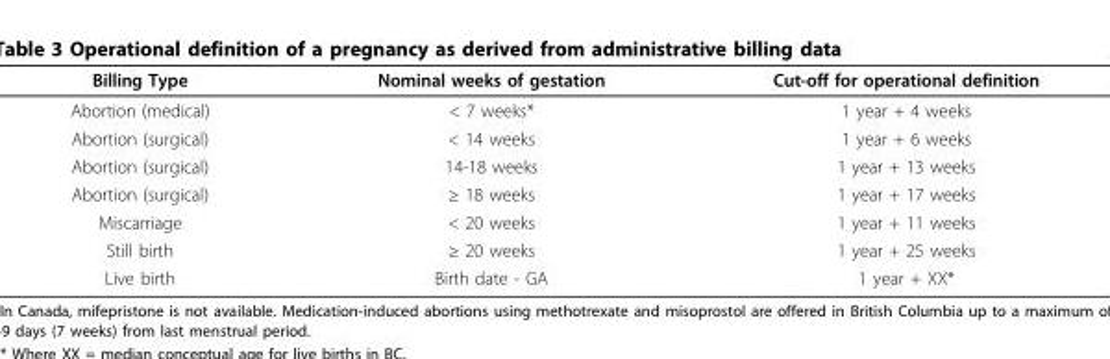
<table><thead><tr><td>Billing Type</td><td>Nominal weeks of gestation</td><td>Cut-off for operational definition</td></tr></thead><tbody><tr><td>Abortion (medical)</td><td>&lt; 7 weeks*</td><td>1 year + 4 weeks</td></tr><tr><td>Abortion (surgical)</td><td>&lt; 14 weeks</td><td>1 year + 6 weeks</td></tr><tr><td>Abortion (surgical)</td><td>14-18 weeks</td><td>1 year + 13 weeks</td></tr><tr><td>Abortion (surgical)</td><td>≥ 18 weeks</td><td>1 year + 17 weeks</td></tr><tr><td>Miscarriage</td><td>&lt; 20 weeks</td><td>1 year + 11 weeks</td></tr><tr><td>Still birth</td><td>≥ 20 weeks</td><td>1 year + 25 weeks</td></tr><tr><td>Live birth</td><td>Birth date - GA</td><td>1 year + XX*</td></tr></tbody></table>